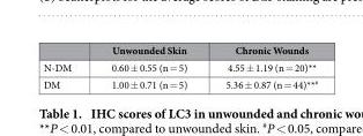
<table><thead><tr><td></td><td>Unwounded Skin</td><td>Chronic Wounds</td></tr></thead><tbody><tr><td>N-DM</td><td>0.60 ± 0.55 (n = 5)</td><td>4.55 ± 1.19 (n = 20)**</td></tr><tr><td>DM</td><td>1.00 ± 0.71 (n = 5)</td><td>5.36 ± 0.87 (n = 44)**<sup>#</sup></td></tr></tbody></table>